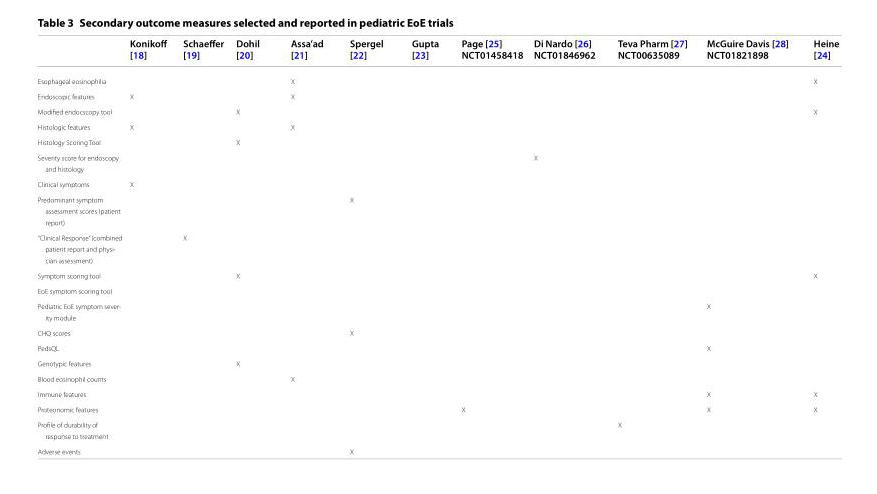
<table><thead><tr><td></td><td>Konikoff [18]</td><td>Schaeffer [19]</td><td>Dohil [20]</td><td>Assa’ad [21]</td><td>Spergel [22]</td><td>Gupta [23]</td><td>Page [25] NCT01458418</td><td>Di Nardo [26] NCT01846962</td><td>Teva Pharm [27] NCT00635089</td><td>McGuire Davis [28] NCT01821898</td><td>Heine [24]</td></tr></thead><tbody><tr><td><sub>Esophageal eosinophilia</sub></td><td></td><td></td><td></td><td><sub>X</sub></td><td></td><td></td><td></td><td></td><td></td><td></td><td><sub>X</sub></td></tr><tr><td><sub>Endoscopic features</sub></td><td><sub>X</sub></td><td></td><td></td><td><sub>X</sub></td><td></td><td></td><td></td><td></td><td></td><td></td><td></td></tr><tr><td><sub>Modified endocscopy tool</sub></td><td></td><td></td><td><sub>X</sub></td><td></td><td></td><td></td><td></td><td></td><td></td><td></td><td><sub>X</sub></td></tr><tr><td><sub>Histologic features</sub></td><td><sub>X</sub></td><td></td><td></td><td><sub>X</sub></td><td></td><td></td><td></td><td></td><td></td><td></td><td></td></tr><tr><td><sub>Histology Scoring Tool</sub></td><td></td><td></td><td><sub>X</sub></td><td></td><td></td><td></td><td></td><td></td><td></td><td></td><td></td></tr><tr><td><sub>Severity score for endoscopy and histology</sub></td><td></td><td></td><td></td><td></td><td></td><td></td><td></td><td><sub>X</sub></td><td></td><td></td><td></td></tr><tr><td><sub>Clinical symptoms</sub></td><td><sub>X</sub></td><td></td><td></td><td></td><td></td><td></td><td></td><td></td><td></td><td></td><td></td></tr><tr><td><sub>Predominant symptom assessment scores (patient report)</sub></td><td></td><td></td><td></td><td></td><td><sub>X</sub></td><td></td><td></td><td></td><td></td><td></td><td></td></tr><tr><td>“Clinical Response” (combined patient report and physi- cian assessment)</td><td></td><td><sub>X</sub></td><td></td><td></td><td></td><td></td><td></td><td></td><td></td><td></td><td></td></tr><tr><td><sub>Symptom scoring tool</sub></td><td></td><td></td><td><sub>X</sub></td><td></td><td></td><td></td><td></td><td></td><td></td><td></td><td><sub>X</sub></td></tr><tr><td colspan="12"><sub>EoE symptom scoring tool</sub></td></tr><tr><td>Pediatric EoE symptom sever- ity module</td><td></td><td></td><td></td><td></td><td></td><td></td><td></td><td></td><td></td><td><sub>X</sub></td><td></td></tr><tr><td><sub>CHQ scores</sub></td><td></td><td></td><td></td><td></td><td><sub>X</sub></td><td></td><td></td><td></td><td></td><td></td><td></td></tr><tr><td><sub>PedsQL</sub></td><td></td><td></td><td></td><td></td><td></td><td></td><td></td><td></td><td></td><td><sub>X</sub></td><td></td></tr><tr><td><sub>Genotypic features</sub></td><td></td><td></td><td><sub>X</sub></td><td></td><td></td><td></td><td></td><td></td><td></td><td></td><td></td></tr><tr><td><sub>Blood eosinophil counts</sub></td><td></td><td></td><td></td><td><sub>X</sub></td><td></td><td></td><td></td><td></td><td></td><td></td><td></td></tr><tr><td><sub>Immune features</sub></td><td></td><td></td><td></td><td></td><td></td><td></td><td></td><td></td><td></td><td><sub>X</sub></td><td><sub>X</sub></td></tr><tr><td><sub>Proteonomic features</sub></td><td></td><td></td><td></td><td></td><td></td><td></td><td><sub>X</sub></td><td></td><td></td><td><sub>X</sub></td><td><sub>X</sub></td></tr><tr><td><sub>Profile of durability of response to treatment</sub></td><td></td><td></td><td></td><td></td><td></td><td></td><td></td><td></td><td><sub>X</sub></td><td></td><td></td></tr><tr><td><sub>Adverse events</sub></td><td></td><td></td><td></td><td></td><td><sub>X</sub></td><td></td><td></td><td></td><td></td><td></td><td></td></tr></tbody></table>